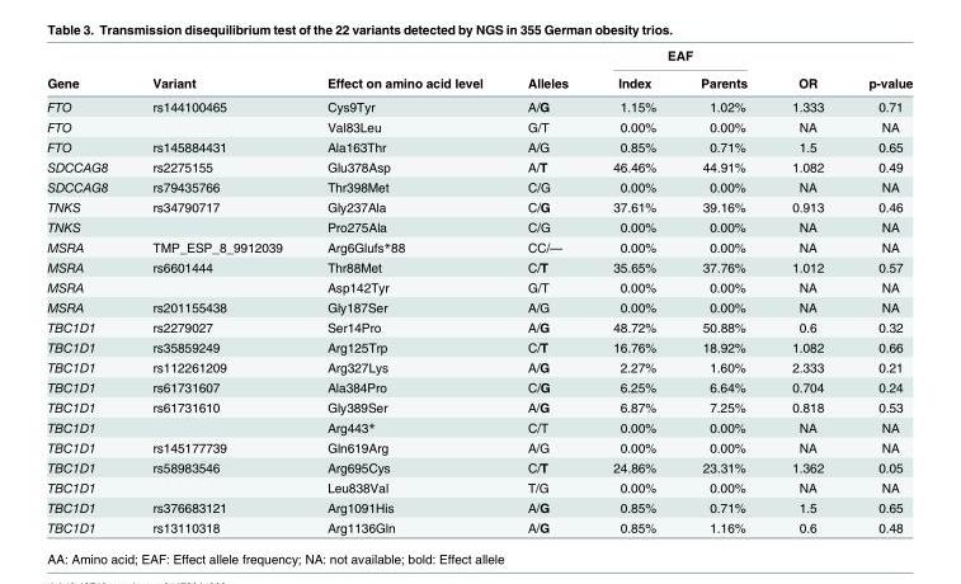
<table><thead><tr><td rowspan="2">Gene</td><td rowspan="2">Variant</td><td rowspan="2">Effect on amino acid level</td><td rowspan="2">Alleles</td><td colspan="2">EAF</td><td rowspan="2">OR</td><td rowspan="2">p-value</td></tr><tr><td>Index</td><td>Parents</td></tr></thead><tbody><tr><td>FTO</td><td>rs144100465</td><td>Cys9Tyr</td><td>A/G</td><td>1.15%</td><td>1.02%</td><td>1.333</td><td>0.71</td></tr><tr><td>FTO</td><td></td><td>Val83Leu</td><td>G/T</td><td>0.00%</td><td>0.00%</td><td>NA</td><td>NA</td></tr><tr><td>FTO</td><td>rs145884431</td><td>Ala163Thr</td><td>A/G</td><td>0.85%</td><td>0.71%</td><td>1.5</td><td>0.65</td></tr><tr><td>SDCCAG8</td><td>rs2275155</td><td>Glu378Asp</td><td>A/T</td><td>46.46%</td><td>44.91%</td><td>1.082</td><td>0.49</td></tr><tr><td>SDCCAG8</td><td>rs79435766</td><td>Thr398Met</td><td>C/G</td><td>0.00%</td><td>0.00%</td><td>NA</td><td>NA</td></tr><tr><td>TNKS</td><td>rs34790717</td><td>Gly237Ala</td><td>C/G</td><td>37.61%</td><td>39.16%</td><td>0.913</td><td>0.46</td></tr><tr><td>TNKS</td><td></td><td>Pro275Ala</td><td>C/G</td><td>0.00%</td><td>0.00%</td><td>NA</td><td>NA</td></tr><tr><td>MSRA</td><td>TMP_ESP_8_9912039</td><td>Arg6Glufs*88</td><td>CC/—</td><td>0.00%</td><td>0.00%</td><td>NA</td><td>NA</td></tr><tr><td>MSRA</td><td>rs6601444</td><td>Thr88Met</td><td>C/T</td><td>35.65%</td><td>37.76%</td><td>1.012</td><td>0.57</td></tr><tr><td>MSRA</td><td></td><td>Asp142Tyr</td><td>G/T</td><td>0.00%</td><td>0.00%</td><td>NA</td><td>NA</td></tr><tr><td>MSRA</td><td>rs201155438</td><td>Gly187Ser</td><td>A/G</td><td>0.00%</td><td>0.00%</td><td>NA</td><td>NA</td></tr><tr><td>TBC1D1</td><td>rs2279027</td><td>Ser14Pro</td><td>A/G</td><td>48.72%</td><td>50.88%</td><td>0.6</td><td>0.32</td></tr><tr><td>TBC1D1</td><td>rs35859249</td><td>Arg125Trp</td><td>C/T</td><td>16.76%</td><td>18.92%</td><td>1.082</td><td>0.66</td></tr><tr><td>TBC1D1</td><td>rs112261209</td><td>Arg327Lys</td><td>A/G</td><td>2.27%</td><td>1.60%</td><td>2.333</td><td>0.21</td></tr><tr><td>TBC1D1</td><td>rs61731607</td><td>Ala384Pro</td><td>C/G</td><td>6.25%</td><td>6.64%</td><td>0.704</td><td>0.24</td></tr><tr><td>TBC1D1</td><td>rs61731610</td><td>Gly389Ser</td><td>A/G</td><td>6.87%</td><td>7.25%</td><td>0.818</td><td>0.53</td></tr><tr><td>TBC1D1</td><td></td><td>Arg443*</td><td>C/T</td><td>0.00%</td><td>0.00%</td><td>NA</td><td>NA</td></tr><tr><td>TBC1D1</td><td>rs145177739</td><td>Gln619Arg</td><td>A/G</td><td>0.00%</td><td>0.00%</td><td>NA</td><td>NA</td></tr><tr><td>TBC1D1</td><td>rs58983546</td><td>Arg695Cys</td><td>C/T</td><td>24.86%</td><td>23.31%</td><td>1.362</td><td>0.05</td></tr><tr><td>TBC1D1</td><td></td><td>Leu838Val</td><td>T/G</td><td>0.00%</td><td>0.00%</td><td>NA</td><td>NA</td></tr><tr><td>TBC1D1</td><td>rs376683121</td><td>Arg1091His</td><td>A/G</td><td>0.85%</td><td>0.71%</td><td>1.5</td><td>0.65</td></tr><tr><td>TBC1D1</td><td>rs13110318</td><td>Arg1136Gln</td><td>A/G</td><td>0.85%</td><td>1.16%</td><td>0.6</td><td>0.48</td></tr></tbody></table>